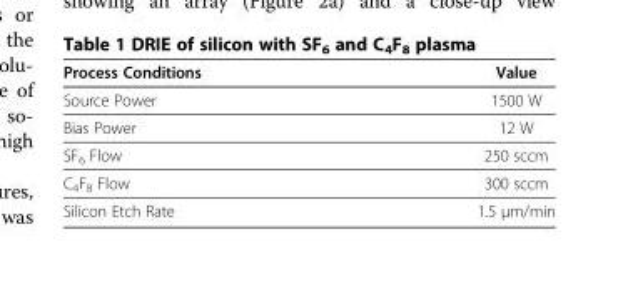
<table><thead><tr><td>Process Conditions</td><td>Value</td></tr></thead><tbody><tr><td>Source Power</td><td>1500 W</td></tr><tr><td>Bias Power</td><td>12 W</td></tr><tr><td>SF<sub>6</sub> Flow</td><td>250 sccm</td></tr><tr><td>C<sub>4</sub>F<sub>8</sub> Flow</td><td>300 sccm</td></tr><tr><td>Silicon Etch Rate</td><td>1.5 μm/min</td></tr></tbody></table>